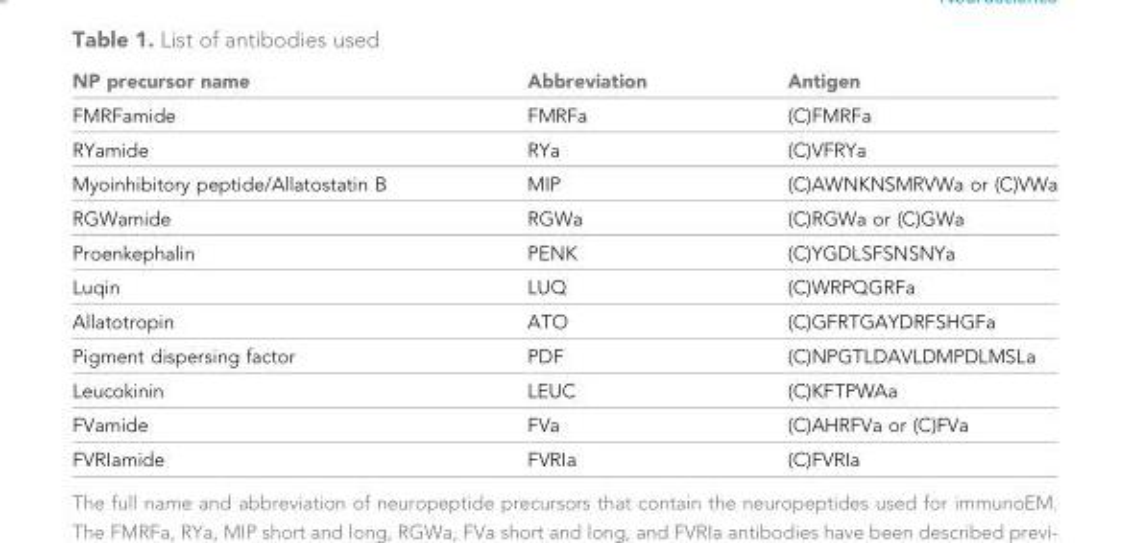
<table><thead><tr><td>NP precursor name</td><td>Abbreviation</td><td>Antigen</td></tr></thead><tbody><tr><td>FMRFamide</td><td>FMRFa</td><td>(C)FMRFa</td></tr><tr><td>RYamide</td><td>RYa</td><td>(C)VFRYa</td></tr><tr><td>Myoinhibitory peptide/Allatostatin B</td><td>MIP</td><td>(C)AWNKNSMRVWa or (C)VWa</td></tr><tr><td>RGWamide</td><td>RGWa</td><td>(C)RGWa or (C)GWa</td></tr><tr><td>Proenkephalin</td><td>PENK</td><td>(C)YGDLSFSNSNYa</td></tr><tr><td>Luqin</td><td>LUQ</td><td>(C)WRPQGRFa</td></tr><tr><td>Allatotropin</td><td>ATO</td><td>(C)GFRTGAYDRFSHGFa</td></tr><tr><td>Pigment dispersing factor</td><td>PDF</td><td>(C)NPGTLDAVLDMPDLMSLa</td></tr><tr><td>Leucokinin</td><td>LEUC</td><td>(C)KFTPWAa</td></tr><tr><td>FVamide</td><td>FVa</td><td>(C)AHRFVa or (C)FVa</td></tr><tr><td>FVRIamide</td><td>FVRIa</td><td>(C)FVRIa</td></tr></tbody></table>